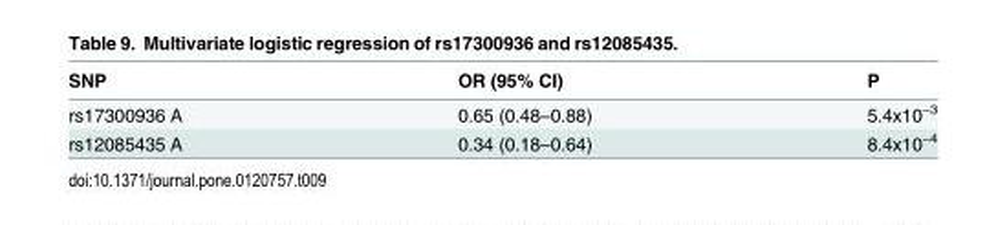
<table><thead><tr><td>SNP</td><td>OR (95% CI)</td><td>P</td></tr></thead><tbody><tr><td>rs17300936 A</td><td>0.65 (0.48–0.88)</td><td>5.4x10<sup>−3</sup></td></tr><tr><td>rs12085435 A</td><td>0.34 (0.18–0.64)</td><td>8.4x10<sup>−4</sup></td></tr></tbody></table>